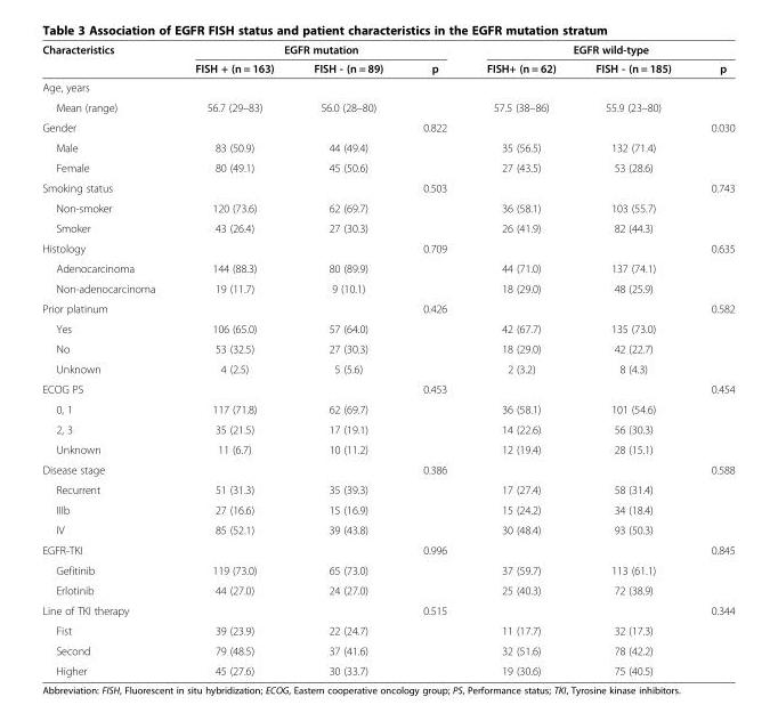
<table><thead><tr><td rowspan="2">Characteristics</td><td colspan="3">EGFR mutation</td><td colspan="3">EGFR wild-type</td></tr><tr><td>FISH + (n = 163)</td><td>FISH - (n = 89)</td><td>p</td><td>FISH+ (n = 62)</td><td>FISH - (n = 185)</td><td>p</td></tr></thead><tbody><tr><td colspan="7">Age, years</td></tr><tr><td>Mean (range)</td><td>56.7 (29–83)</td><td>56.0 (28–80)</td><td></td><td>57.5 (38–86)</td><td>55.9 (23–80)</td><td></td></tr><tr><td>Gender</td><td></td><td></td><td>0.822</td><td></td><td></td><td>0.030</td></tr><tr><td>Male</td><td>83 (50.9)</td><td>44 (49.4)</td><td></td><td>35 (56.5)</td><td>132 (71.4)</td><td></td></tr><tr><td>Female</td><td>80 (49.1)</td><td>45 (50.6)</td><td></td><td>27 (43.5)</td><td>53 (28.6)</td><td></td></tr><tr><td>Smoking status</td><td></td><td></td><td>0.503</td><td></td><td></td><td>0.743</td></tr><tr><td>Non-smoker</td><td>120 (73.6)</td><td>62 (69.7)</td><td></td><td>36 (58.1)</td><td>103 (55.7)</td><td></td></tr><tr><td>Smoker</td><td>43 (26.4)</td><td>27 (30.3)</td><td></td><td>26 (41.9)</td><td>82 (44.3)</td><td></td></tr><tr><td>Histology</td><td></td><td></td><td>0.709</td><td></td><td></td><td>0.635</td></tr><tr><td>Adenocarcinoma</td><td>144 (88.3)</td><td>80 (89.9)</td><td></td><td>44 (71.0)</td><td>137 (74.1)</td><td></td></tr><tr><td>Non-adenocarcinoma</td><td>19 (11.7)</td><td>9 (10.1)</td><td></td><td>18 (29.0)</td><td>48 (25.9)</td><td></td></tr><tr><td>Prior platinum</td><td></td><td></td><td>0.426</td><td></td><td></td><td>0.582</td></tr><tr><td>Yes</td><td>106 (65.0)</td><td>57 (64.0)</td><td></td><td>42 (67.7)</td><td>135 (73.0)</td><td></td></tr><tr><td>No</td><td>53 (32.5)</td><td>27 (30.3)</td><td></td><td>18 (29.0)</td><td>42 (22.7)</td><td></td></tr><tr><td>Unknown</td><td>4 (2.5)</td><td>5 (5.6)</td><td></td><td>2 (3.2)</td><td>8 (4.3)</td><td></td></tr><tr><td>ECOG PS</td><td></td><td></td><td>0.453</td><td></td><td></td><td>0.454</td></tr><tr><td>0, 1</td><td>117 (71.8)</td><td>62 (69.7)</td><td></td><td>36 (58.1)</td><td>101 (54.6)</td><td></td></tr><tr><td>2, 3</td><td>35 (21.5)</td><td>17 (19.1)</td><td></td><td>14 (22.6)</td><td>56 (30.3)</td><td></td></tr><tr><td>Unknown</td><td>11 (6.7)</td><td>10 (11.2)</td><td></td><td>12 (19.4)</td><td>28 (15.1)</td><td></td></tr><tr><td>Disease stage</td><td></td><td></td><td>0.386</td><td></td><td></td><td>0.588</td></tr><tr><td>Recurrent</td><td>51 (31.3)</td><td>35 (39.3)</td><td></td><td>17 (27.4)</td><td>58 (31.4)</td><td></td></tr><tr><td>IIIb</td><td>27 (16.6)</td><td>15 (16.9)</td><td></td><td>15 (24.2)</td><td>34 (18.4)</td><td></td></tr><tr><td>IV</td><td>85 (52.1)</td><td>39 (43.8)</td><td></td><td>30 (48.4)</td><td>93 (50.3)</td><td></td></tr><tr><td>EGFR-TKI</td><td></td><td></td><td>0.996</td><td></td><td></td><td>0.845</td></tr><tr><td>Gefitinib</td><td>119 (73.0)</td><td>65 (73.0)</td><td></td><td>37 (59.7)</td><td>113 (61.1)</td><td></td></tr><tr><td>Erlotinib</td><td>44 (27.0)</td><td>24 (27.0)</td><td></td><td>25 (40.3)</td><td>72 (38.9)</td><td></td></tr><tr><td>Line of TKI therapy</td><td></td><td></td><td>0.515</td><td></td><td></td><td>0.344</td></tr><tr><td>Fist</td><td>39 (23.9)</td><td>22 (24.7)</td><td></td><td>11 (17.7)</td><td>32 (17.3)</td><td></td></tr><tr><td>Second</td><td>79 (48.5)</td><td>37 (41.6)</td><td></td><td>32 (51.6)</td><td>78 (42.2)</td><td></td></tr><tr><td>Higher</td><td>45 (27.6)</td><td>30 (33.7)</td><td></td><td>19 (30.6)</td><td>75 (40.5)</td><td></td></tr></tbody></table>